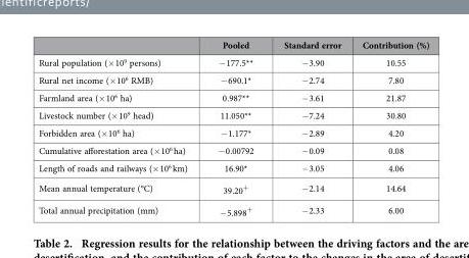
<table><thead><tr><td></td><td>Pooled</td><td>Standard error</td><td>Contribution (%)</td></tr></thead><tbody><tr><td>Rural population (× 10<sup>9</sup> persons)</td><td>− 177.5**</td><td>− 3.90</td><td>10.55</td></tr><tr><td>Rural net income (× 10<sup>6</sup> RMB)</td><td>− 690.1*</td><td>− 2.74</td><td>7.80</td></tr><tr><td>Farmland area (× 10<sup>6</sup> ha)</td><td>0.987**</td><td>− 3.61</td><td>21.87</td></tr><tr><td>Livestock number (× 10<sup>9</sup> head)</td><td>11.050**</td><td>− 7.24</td><td>30.80</td></tr><tr><td>Forbidden area (× 10<sup>6</sup> ha)</td><td>− 1.177*</td><td>− 2.89</td><td>4.20</td></tr><tr><td>Cumulative afforestation area (× 10<sup>6</sup> ha)</td><td>− 0.00792</td><td>− 0.09</td><td>0.08</td></tr><tr><td>Length of roads and railways (× 10<sup>6</sup> km)</td><td>16.90*</td><td>− 3.05</td><td>4.06</td></tr><tr><td>Mean annual temperature (°C)</td><td>39.20<sup>+</sup></td><td>− 2.14</td><td>14.64</td></tr><tr><td>Total annual precipitation (mm)</td><td>− 5.898<sup>+</sup></td><td>− 2.33</td><td>6.00</td></tr></tbody></table>